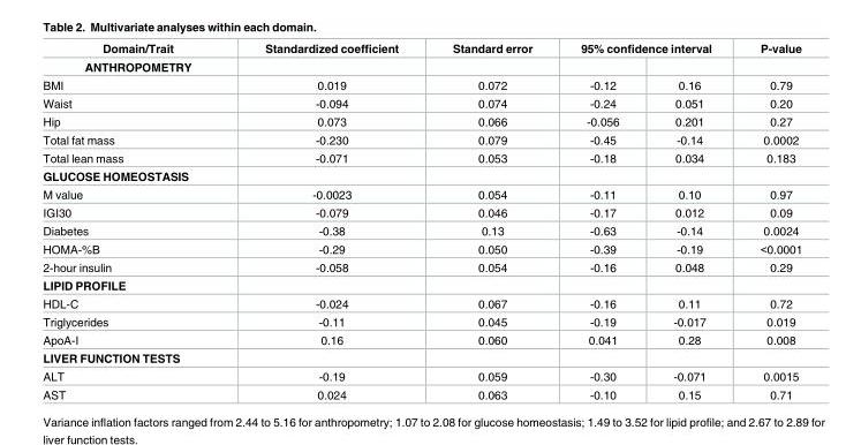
<table><thead><tr><td rowspan="2">Domain/Trait ANTHROPOMETRY</td><td rowspan="2">Standardized coefficient</td><td rowspan="2">Standard error</td><td colspan="2">95% confidence interval</td><td rowspan="2">P-value</td></tr><tr><td></td><td></td></tr></thead><tbody><tr><td>BMI</td><td>0.019</td><td>0.072</td><td>-0.12</td><td>0.16</td><td>0.79</td></tr><tr><td>Waist</td><td>-0.094</td><td>0.074</td><td>-0.24</td><td>0.051</td><td>0.20</td></tr><tr><td>Hip</td><td>0.073</td><td>0.066</td><td>-0.056</td><td>0.201</td><td>0.27</td></tr><tr><td>Total fat mass</td><td>-0.230</td><td>0.079</td><td>-0.45</td><td>-0.14</td><td>0.0002</td></tr><tr><td>Total lean mass</td><td>-0.071</td><td>0.053</td><td>-0.18</td><td>0.034</td><td>0.183</td></tr><tr><td colspan="6">GLUCOSE HOMEOSTASIS</td></tr><tr><td>M value</td><td>-0.0023</td><td>0.054</td><td>-0.11</td><td>0.10</td><td>0.97</td></tr><tr><td>IGI30</td><td>-0.079</td><td>0.046</td><td>-0.17</td><td>0.012</td><td>0.09</td></tr><tr><td>Diabetes</td><td>-0.38</td><td>0.13</td><td>-0.63</td><td>-0.14</td><td>0.0024</td></tr><tr><td>HOMA-%B</td><td>-0.29</td><td>0.050</td><td>-0.39</td><td>-0.19</td><td>&lt;0.0001</td></tr><tr><td>2-hour insulin</td><td>-0.058</td><td>0.054</td><td>-0.16</td><td>0.048</td><td>0.29</td></tr><tr><td colspan="6">LIPID PROFILE</td></tr><tr><td>HDL-C</td><td>-0.024</td><td>0.067</td><td>-0.16</td><td>0.11</td><td>0.72</td></tr><tr><td>Triglycerides</td><td>-0.11</td><td>0.045</td><td>-0.19</td><td>-0.017</td><td>0.019</td></tr><tr><td>ApoA-I</td><td>0.16</td><td>0.060</td><td>0.041</td><td>0.28</td><td>0.008</td></tr><tr><td colspan="6">LIVER FUNCTION TESTS</td></tr><tr><td>ALT</td><td>-0.19</td><td>0.059</td><td>-0.30</td><td>-0.071</td><td>0.0015</td></tr><tr><td>AST</td><td>0.024</td><td>0.063</td><td>-0.10</td><td>0.15</td><td>0.71</td></tr></tbody></table>